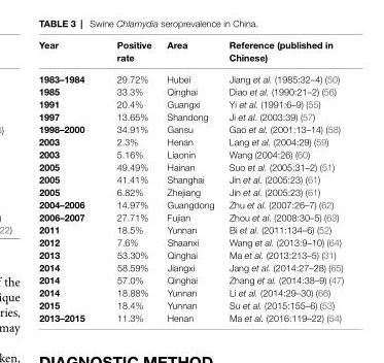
<table><thead><tr><td>Year</td><td>Positive rate</td><td>Area</td><td>Reference (published in Chinese)</td></tr></thead><tbody><tr><td>1983–1984</td><td>29.72%</td><td>Hubei</td><td>Jiang et al. (1985:32–4) (50)</td></tr><tr><td>1985</td><td>33.3%</td><td>Qinghai</td><td>Diao et al. (1990:21–2) (56)</td></tr><tr><td>1991</td><td>20.4%</td><td>Guangxi</td><td>Yi et al. (1991:6–9) (55)</td></tr><tr><td>1997</td><td>13.65%</td><td>Shandong</td><td>Ji et al. (2003:39) (57)</td></tr><tr><td>1998–2000</td><td>34.91%</td><td>Gansu</td><td>Gao et al. (2001:13–14) (58)</td></tr><tr><td>2003</td><td>2.3%</td><td>Henan</td><td>Lang et al. (2004:29) (59)</td></tr><tr><td>2003</td><td>5.16%</td><td>Liaonin</td><td>Wang (2004:26) (60)</td></tr><tr><td>2005</td><td>49.49%</td><td>Hainan</td><td>Suo et al. (2005:31–2) (51)</td></tr><tr><td>2005</td><td>41.41%</td><td>Shanghai</td><td>Jin et al. (2005:23) (61)</td></tr><tr><td>2005</td><td>6.82%</td><td>Zhejiang</td><td>Jin et al. (2005:23) (61)</td></tr><tr><td>2004–2006</td><td>14.97%</td><td>Guangdong</td><td>Zhu et al. (2007:26–7) (62)</td></tr><tr><td>2006–2007</td><td>27.71%</td><td>Fujian</td><td>Zhou et al. (2008:30–5) (63)</td></tr><tr><td>2011</td><td>18.5%</td><td>Yunnan</td><td>Bi et al. (2011:134–6) (52)</td></tr><tr><td>2012</td><td>7.6%</td><td>Shaanxi</td><td>Wang et al. (2013:9–10) (64)</td></tr><tr><td>2013</td><td>53.30%</td><td>Qinghai</td><td>Ma et al. (2013:213–5) (31)</td></tr><tr><td>2014</td><td>58.59%</td><td>Jiangxi</td><td>Jang et al. (2014:27–28) (65)</td></tr><tr><td>2014</td><td>57.0%</td><td>Qinghai</td><td>Zhang et al. (2014:38–9) (47)</td></tr><tr><td>2014</td><td>18.88%</td><td>Yunnan</td><td>Li et al. (2014:29–30) (66)</td></tr><tr><td>2015</td><td>18.4%</td><td>Yunnan</td><td>Su et al. (2015:155–6) (53)</td></tr><tr><td>2013–2015</td><td>11.3%</td><td>Henan</td><td>Ma et al. (2016:119–22) (54)</td></tr></tbody></table>